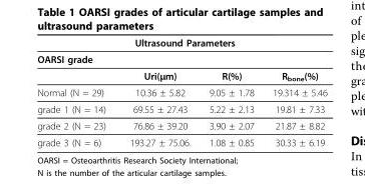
<table><thead><tr><td rowspan="2" colspan="4">Ultrasound Parameters OARSI grade</td></tr><tr></tr><tr><td></td><td>Uri(μm)</td><td>R(%)</td><td>R<sub>bone</sub>(%)</td></tr></thead><tbody><tr><td>Normal (N = 29)</td><td>10.36 ± 5.82</td><td>9.05 ± 1.78</td><td>19.314 ± 5.46</td></tr><tr><td>grade 1 (N = 14)</td><td>69.55 ± 27.43</td><td>5.22 ± 2.13</td><td>19.81 ± 7.33</td></tr><tr><td>grade 2 (N = 23)</td><td>76.86 ± 39.20</td><td>3.90 ± 2.07</td><td>21.87 ± 8.82</td></tr><tr><td>grade 3 (N = 6)</td><td>193.27 ± 75.06.</td><td>1.08 ± 0.85</td><td>30.33 ± 6.19</td></tr></tbody></table>